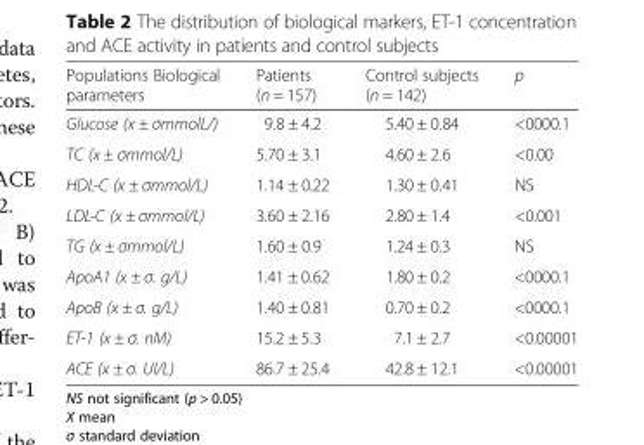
<table><thead><tr><td>Populations Biological parameters</td><td>Patients (n = 157)</td><td>Control subjects (n = 142)</td><td>p</td></tr></thead><tbody><tr><td>Glucose (x ± σmmolL/)</td><td>9.8 ± 4.2</td><td>5.40 ± 0.84</td><td>&lt;0000.1</td></tr><tr><td>TC (x ± σmmol/L)</td><td>5.70 ± 3.1</td><td>4.60 ± 2.6</td><td>&lt;0.00</td></tr><tr><td>HDL-C (x ± σmmol/L)</td><td>1.14 ± 0.22</td><td>1.30 ± 0.41</td><td>NS</td></tr><tr><td>LDL-C (x ± σmmol/L)</td><td>3.60 ± 2.16</td><td>2.80 ± 1.4</td><td>&lt;0.001</td></tr><tr><td>TG (x ± σmmol/L)</td><td>1.60 ± 0.9</td><td>1.24 ± 0.3</td><td>NS</td></tr><tr><td>ApoA1 (x ± σ. g/L)</td><td>1.41 ± 0.62</td><td>1.80 ± 0.2</td><td>&lt;0000.1</td></tr><tr><td>ApoB (x ± σ. g/L)</td><td>1.40 ± 0.81</td><td>0.70 ± 0.2</td><td>&lt;0000.1</td></tr><tr><td>ET-1 (x ± σ. nM)</td><td>15.2 ± 5.3</td><td>7.1 ± 2.7</td><td>&lt;0.00001</td></tr><tr><td>ACE (x ± σ. UI/L)</td><td>86.7 ± 25.4</td><td>42.8 ± 12.1</td><td>&lt;0.00001</td></tr></tbody></table>